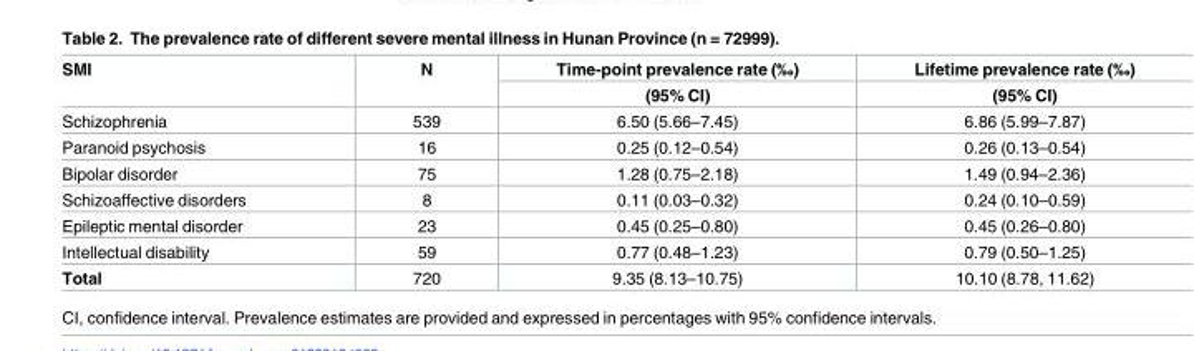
<table><thead><tr><td rowspan="2">SMI</td><td rowspan="2">N</td><td rowspan="2">Time-point prevalence rate (‰) (95% CI)</td><td rowspan="2">Lifetime prevalence rate (‰) (95% CI)</td></tr><tr></tr></thead><tbody><tr><td>Schizophrenia</td><td>539</td><td>6.50 (5.66–7.45)</td><td>6.86 (5.99–7.87)</td></tr><tr><td>Paranoid psychosis</td><td>16</td><td>0.25 (0.12–0.54)</td><td>0.26 (0.13–0.54)</td></tr><tr><td>Bipolar disorder</td><td>75</td><td>1.28 (0.75–2.18)</td><td>1.49 (0.94–2.36)</td></tr><tr><td>Schizoaffective disorders</td><td>8</td><td>0.11 (0.03–0.32)</td><td>0.24 (0.10–0.59)</td></tr><tr><td>Epileptic mental disorder</td><td>23</td><td>0.45 (0.25–0.80)</td><td>0.45 (0.26–0.80)</td></tr><tr><td>Intellectual disability</td><td>59</td><td>0.77 (0.48–1.23)</td><td>0.79 (0.50–1.25)</td></tr><tr><td>Total</td><td>720</td><td>9.35 (8.13–10.75)</td><td>10.10 (8.78, 11.62)</td></tr></tbody></table>